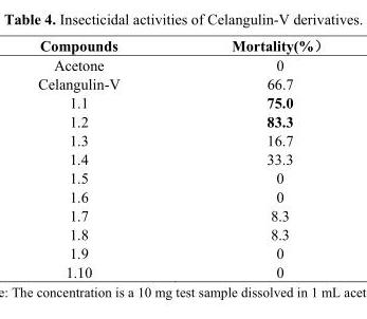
<table><thead><tr><td>Compounds</td><td>Mortality(%）</td></tr></thead><tbody><tr><td>Acetone</td><td>0</td></tr><tr><td>Celangulin-V</td><td>66.7</td></tr><tr><td>1.1</td><td>75.0</td></tr><tr><td>1.2</td><td>83.3</td></tr><tr><td>1.3</td><td>16.7</td></tr><tr><td>1.4</td><td>33.3</td></tr><tr><td>1.5</td><td>0</td></tr><tr><td>1.6</td><td>0</td></tr><tr><td>1.7</td><td>8.3</td></tr><tr><td>1.8</td><td>8.3</td></tr><tr><td>1.9</td><td>0</td></tr><tr><td>1.10</td><td>0</td></tr></tbody></table>